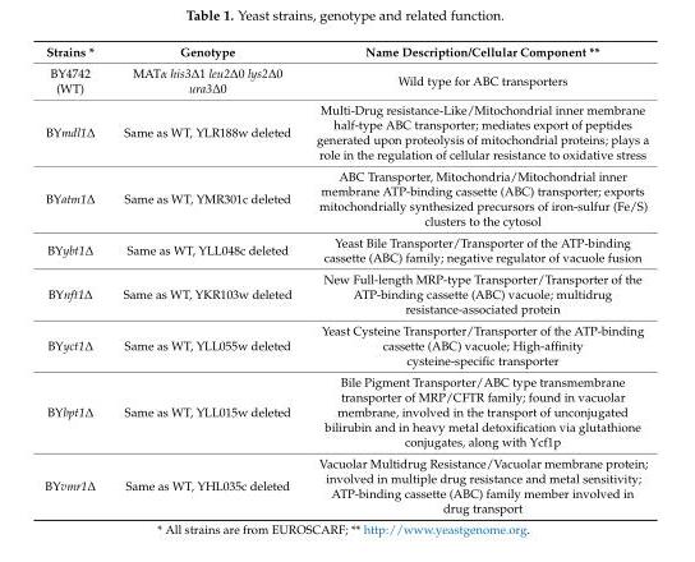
<table><thead><tr><td>Strains *</td><td>Genotype</td><td>Name Description/Cellular Component **</td></tr></thead><tbody><tr><td>BY4742 (WT)</td><td>MATα his3∆1 leu2∆0 lys2∆0 ura3∆0</td><td>Wild type for ABC transporters</td></tr><tr><td>BYmdl1∆</td><td>Same as WT, YLR188w deleted</td><td>Multi-Drug resistance-Like/Mitochondrial inner membrane half-type ABC transporter; mediates export of peptides generated upon proteolysis of mitochondrial proteins; plays a role in the regulation of cellular resistance to oxidative stress</td></tr><tr><td>BYatm1∆</td><td>Same as WT, YMR301c deleted</td><td>ABC Transporter, Mitochondria/Mitochondrial inner membrane ATP-binding cassette (ABC) transporter; exports mitochondrially synthesized precursors of iron-sulfur (Fe/S) clusters to the cytosol</td></tr><tr><td>BYybt1∆</td><td>Same as WT, YLL048c deleted</td><td>Yeast Bile Transporter/Transporter of the ATP-binding cassette (ABC) family; negative regulator of vacuole fusion</td></tr><tr><td>BYnft1∆</td><td>Same as WT, YKR103w deleted</td><td>New Full-length MRP-type Transporter/Transporter of the ATP-binding cassette (ABC) vacuole; multidrug resistance-associated protein</td></tr><tr><td>BYyct1∆</td><td>Same as WT, YLL055w deleted</td><td>Yeast Cysteine Transporter/Transporter of the ATP-binding cassette (ABC) vacuole; High-affinity cysteine-specific transporter</td></tr><tr><td>BYbpt1∆</td><td>Same as WT, YLL015w deleted</td><td>Bile Pigment Transporter/ABC type transmembrane transporter of MRP/CFTR family; found in vacuolar membrane, involved in the transport of unconjugated bilirubin and in heavy metal detoxification via glutathione conjugates, along with Ycf1p</td></tr><tr><td>BYvmr1∆</td><td>Same as WT, YHL035c deleted</td><td>Vacuolar Multidrug Resistance/Vacuolar membrane protein; involved in multiple drug resistance and metal sensitivity; ATP-binding cassette (ABC) family member involved in drug transport</td></tr></tbody></table>